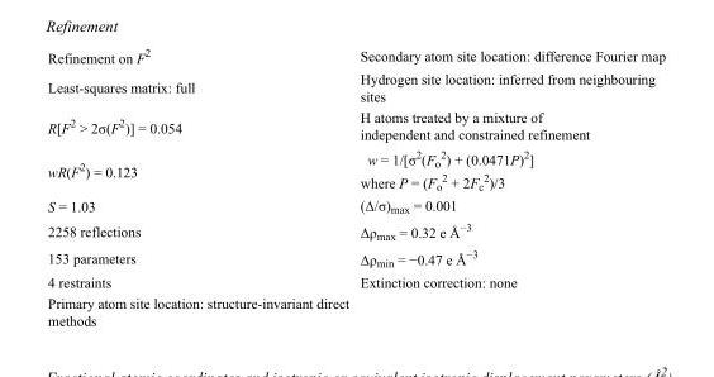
<table><tbody><tr><td>Refinement on F<sup>2</sup></td><td>Secondary atom site location: difference Fourier map</td></tr><tr><td>Least-squares matrix: full</td><td>Hydrogen site location: inferred from neighbouring sites</td></tr><tr><td>R[F<sup>2</sup> &gt; 2σ(F<sup>2</sup>)] = 0.054</td><td>H atoms treated by a mixture of independent and constrained refinement</td></tr><tr><td>wR(F<sup>2</sup>) = 0.123</td><td>w = 1/[σ<sup>2</sup>(F<sub>o</sub> <sup>2</sup>) + (0.0471P)<sup>2</sup>] where P = (F<sub>o</sub> <sup>2</sup> + 2F<sub>c</sub> <sup>2</sup>)/3</td></tr><tr><td>S = 1.03</td><td>(Δ/σ)<sub>max</sub> = 0.001</td></tr><tr><td>2258 reflections</td><td>Δρ<sub>max</sub> = 0.32 e Å<sup>−3</sup></td></tr><tr><td>153 parameters</td><td>Δρ<sub>min</sub> = −0.47 e Å<sup>−3</sup></td></tr><tr><td>4 restraints</td><td>Extinction correction: none</td></tr><tr><td>Primary atom site location: structure-invariant direct methods</td><td></td></tr></tbody></table>